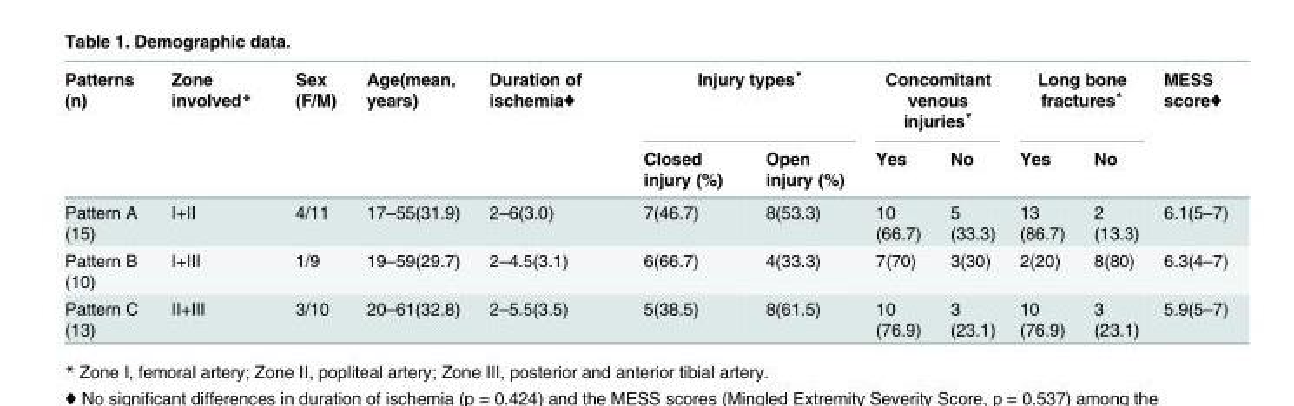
<table><thead><tr><td rowspan="2">Patterns (n)</td><td rowspan="2">Zone involved*</td><td rowspan="2">Sex (F/M)</td><td rowspan="2">Age(mean, years)</td><td rowspan="2">Duration of ischemia♦</td><td colspan="2">Injury types<sup>▼</sup></td><td colspan="2">Concomitant venous injuries<sup>▼</sup></td><td colspan="2">Long bone fractures<sup>▲</sup></td><td rowspan="2">MESS score♦</td></tr><tr><td>Closed injury (%)</td><td>Open injury (%)</td><td>Yes</td><td>No</td><td>Yes</td><td>No</td></tr></thead><tbody><tr><td>Pattern A (15)</td><td>I+II</td><td>4/11</td><td>17–55(31.9)</td><td>2–6(3.0)</td><td>7(46.7)</td><td>8(53.3)</td><td>10 (66.7)</td><td>5 (33.3)</td><td>13 (86.7)</td><td>2 (13.3)</td><td>6.1(5–7)</td></tr><tr><td>Pattern B (10)</td><td>I+III</td><td>1/9</td><td>19–59(29.7)</td><td>2–4.5(3.1)</td><td>6(66.7)</td><td>4(33.3)</td><td>7(70)</td><td>3(30)</td><td>2(20)</td><td>8(80)</td><td>6.3(4–7)</td></tr><tr><td>Pattern C (13)</td><td>II+III</td><td>3/10</td><td>20–61(32.8)</td><td>2–5.5(3.5)</td><td>5(38.5)</td><td>8(61.5)</td><td>10 (76.9)</td><td>3 (23.1)</td><td>10 (76.9)</td><td>3 (23.1)</td><td>5.9(5–7)</td></tr></tbody></table>